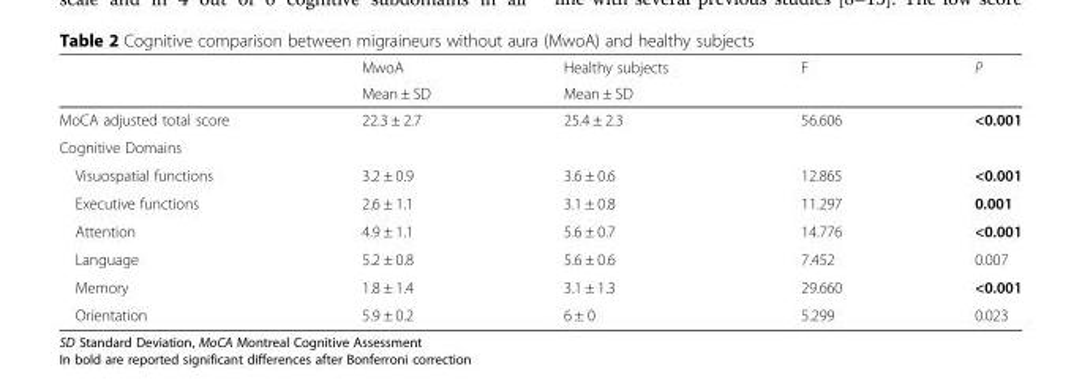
<table><thead><tr><td rowspan="2"></td><td rowspan="2">MwoA Mean ± SD</td><td rowspan="2">Healthy subjects Mean ± SD</td><td rowspan="2">F</td><td rowspan="2">P</td></tr><tr></tr></thead><tbody><tr><td>MoCA adjusted total score</td><td>22.3 ± 2.7</td><td>25.4 ± 2.3</td><td>56.606</td><td>&lt;0.001</td></tr><tr><td colspan="5">Cognitive Domains</td></tr><tr><td>Visuospatial functions</td><td>3.2 ± 0.9</td><td>3.6 ± 0.6</td><td>12.865</td><td>&lt;0.001</td></tr><tr><td>Executive functions</td><td>2.6 ± 1.1</td><td>3.1 ± 0.8</td><td>11.297</td><td>0.001</td></tr><tr><td>Attention</td><td>4.9 ± 1.1</td><td>5.6 ± 0.7</td><td>14.776</td><td>&lt;0.001</td></tr><tr><td>Language</td><td>5.2 ± 0.8</td><td>5.6 ± 0.6</td><td>7.452</td><td>0.007</td></tr><tr><td>Memory</td><td>1.8 ± 1.4</td><td>3.1 ± 1.3</td><td>29.660</td><td>&lt;0.001</td></tr><tr><td>Orientation</td><td>5.9 ± 0.2</td><td>6 ± 0</td><td>5.299</td><td>0.023</td></tr></tbody></table>